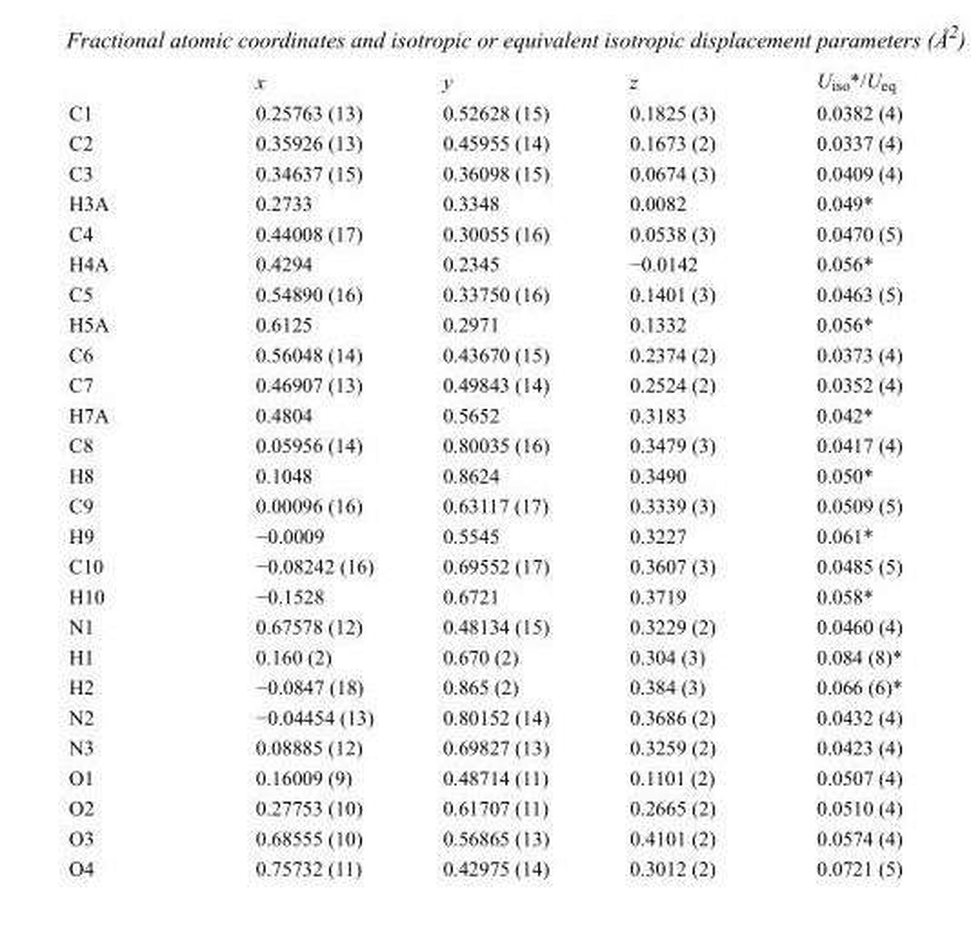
<table><thead><tr><td></td><td>x</td><td>y</td><td>z</td><td>U<sub>iso</sub>*/U<sub>eq</sub></td></tr></thead><tbody><tr><td>C1</td><td>0.25763 (13)</td><td>0.52628 (15)</td><td>0.1825 (3)</td><td>0.0382 (4)</td></tr><tr><td>C2</td><td>0.35926 (13)</td><td>0.45955 (14)</td><td>0.1673 (2)</td><td>0.0337 (4)</td></tr><tr><td>C3</td><td>0.34637 (15)</td><td>0.36098 (15)</td><td>0.0674 (3)</td><td>0.0409 (4)</td></tr><tr><td>H3A</td><td>0.2733</td><td>0.3348</td><td>0.0082</td><td>0.049*</td></tr><tr><td>C4</td><td>0.44008 (17)</td><td>0.30055 (16)</td><td>0.0538 (3)</td><td>0.0470 (5)</td></tr><tr><td>H4A</td><td>0.4294</td><td>0.2345</td><td>−0.0142</td><td>0.056*</td></tr><tr><td>C5</td><td>0.54890 (16)</td><td>0.33750 (16)</td><td>0.1401 (3)</td><td>0.0463 (5)</td></tr><tr><td>H5A</td><td>0.6125</td><td>0.2971</td><td>0.1332</td><td>0.056*</td></tr><tr><td>C6</td><td>0.56048 (14)</td><td>0.43670 (15)</td><td>0.2374 (2)</td><td>0.0373 (4)</td></tr><tr><td>C7</td><td>0.46907 (13)</td><td>0.49843 (14)</td><td>0.2524 (2)</td><td>0.0352 (4)</td></tr><tr><td>H7A</td><td>0.4804</td><td>0.5652</td><td>0.3183</td><td>0.042*</td></tr><tr><td>C8</td><td>0.05956 (14)</td><td>0.80035 (16)</td><td>0.3479 (3)</td><td>0.0417 (4)</td></tr><tr><td>H8</td><td>0.1048</td><td>0.8624</td><td>0.3490</td><td>0.050*</td></tr><tr><td>C9</td><td>0.00096 (16)</td><td>0.63117 (17)</td><td>0.3339 (3)</td><td>0.0509 (5)</td></tr><tr><td>H9</td><td>−0.0009</td><td>0.5545</td><td>0.3227</td><td>0.061*</td></tr><tr><td>C10</td><td>−0.08242 (16)</td><td>0.69552 (17)</td><td>0.3607 (3)</td><td>0.0485 (5)</td></tr><tr><td>H10</td><td>−0.1528</td><td>0.6721</td><td>0.3719</td><td>0.058*</td></tr><tr><td>N1</td><td>0.67578 (12)</td><td>0.48134 (15)</td><td>0.3229 (2)</td><td>0.0460 (4)</td></tr><tr><td>H1</td><td>0.160 (2)</td><td>0.670 (2)</td><td>0.304 (3)</td><td>0.084 (8)*</td></tr><tr><td>H2</td><td>−0.0847 (18)</td><td>0.865 (2)</td><td>0.384 (3)</td><td>0.066 (6)*</td></tr><tr><td>N2</td><td>−0.04454 (13)</td><td>0.80152 (14)</td><td>0.3686 (2)</td><td>0.0432 (4)</td></tr><tr><td>N3</td><td>0.08885 (12)</td><td>0.69827 (13)</td><td>0.3259 (2)</td><td>0.0423 (4)</td></tr><tr><td>O1</td><td>0.16009 (9)</td><td>0.48714 (11)</td><td>0.1101 (2)</td><td>0.0507 (4)</td></tr><tr><td>O2</td><td>0.27753 (10)</td><td>0.61707 (11)</td><td>0.2665 (2)</td><td>0.0510 (4)</td></tr><tr><td>O3</td><td>0.68555 (10)</td><td>0.56865 (13)</td><td>0.4101 (2)</td><td>0.0574 (4)</td></tr><tr><td>O4</td><td>0.75732 (11)</td><td>0.42975 (14)</td><td>0.3012 (2)</td><td>0.0721 (5)</td></tr></tbody></table>